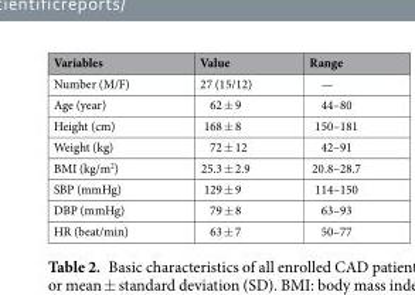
<table><thead><tr><td>Variables</td><td>Value</td><td>Range</td></tr></thead><tbody><tr><td>Number (M/F)</td><td>27 (15/12)</td><td>—</td></tr><tr><td>Age (year)</td><td>62 ± 9</td><td>44–80</td></tr><tr><td>Height (cm)</td><td>168 ± 8</td><td>150–181</td></tr><tr><td>Weight (kg)</td><td>72 ± 12</td><td>42–91</td></tr><tr><td>BMI (kg/m<sup>2</sup>)</td><td>25.3 ± 2.9</td><td>20.8–28.7</td></tr><tr><td>SBP (mmHg)</td><td>129 ± 9</td><td>114–150</td></tr><tr><td>DBP (mmHg)</td><td>79 ± 8</td><td>63–93</td></tr><tr><td>HR (beat/min)</td><td>63 ± 7</td><td>50–77</td></tr></tbody></table>